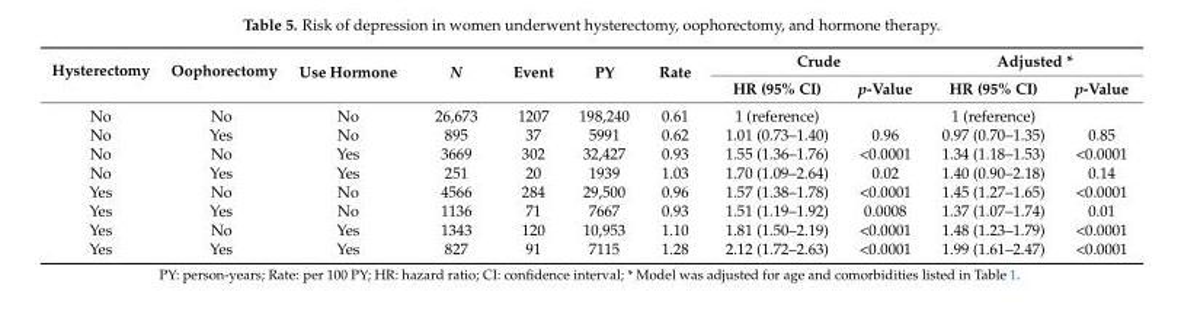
<table><thead><tr><td rowspan="2">Hysterectomy</td><td rowspan="2">Oophorectomy</td><td rowspan="2">Use Hormone</td><td rowspan="2">N</td><td rowspan="2">Event</td><td rowspan="2">PY</td><td rowspan="2">Rate</td><td colspan="2">Crude</td><td colspan="2">Adjusted *</td></tr><tr><td>HR (95% CI)</td><td>p-Value</td><td>HR (95% CI)</td><td>p-Value</td></tr></thead><tbody><tr><td>No</td><td>No</td><td>No</td><td>26,673</td><td>1207</td><td>198,240</td><td>0.61</td><td>1 (reference)</td><td></td><td>1 (reference)</td><td></td></tr><tr><td>No</td><td>Yes</td><td>No</td><td>895</td><td>37</td><td>5991</td><td>0.62</td><td>1.01 (0.73–1.40)</td><td>0.96</td><td>0.97 (0.70–1.35)</td><td>0.85</td></tr><tr><td>No</td><td>No</td><td>Yes</td><td>3669</td><td>302</td><td>32,427</td><td>0.93</td><td>1.55 (1.36–1.76)</td><td>&lt;0.0001</td><td>1.34 (1.18–1.53)</td><td>&lt;0.0001</td></tr><tr><td>No</td><td>Yes</td><td>Yes</td><td>251</td><td>20</td><td>1939</td><td>1.03</td><td>1.70 (1.09–2.64)</td><td>0.02</td><td>1.40 (0.90–2.18)</td><td>0.14</td></tr><tr><td>Yes</td><td>No</td><td>No</td><td>4566</td><td>284</td><td>29,500</td><td>0.96</td><td>1.57 (1.38–1.78)</td><td>&lt;0.0001</td><td>1.45 (1.27–1.65)</td><td>&lt;0.0001</td></tr><tr><td>Yes</td><td>Yes</td><td>No</td><td>1136</td><td>71</td><td>7667</td><td>0.93</td><td>1.51 (1.19–1.92)</td><td>0.0008</td><td>1.37 (1.07–1.74)</td><td>0.01</td></tr><tr><td>Yes</td><td>No</td><td>Yes</td><td>1343</td><td>120</td><td>10,953</td><td>1.10</td><td>1.81 (1.50–2.19)</td><td>&lt;0.0001</td><td>1.48 (1.23–1.79)</td><td>&lt;0.0001</td></tr><tr><td>Yes</td><td>Yes</td><td>Yes</td><td>827</td><td>91</td><td>7115</td><td>1.28</td><td>2.12 (1.72–2.63)</td><td>&lt;0.0001</td><td>1.99 (1.61–2.47)</td><td>&lt;0.0001</td></tr></tbody></table>